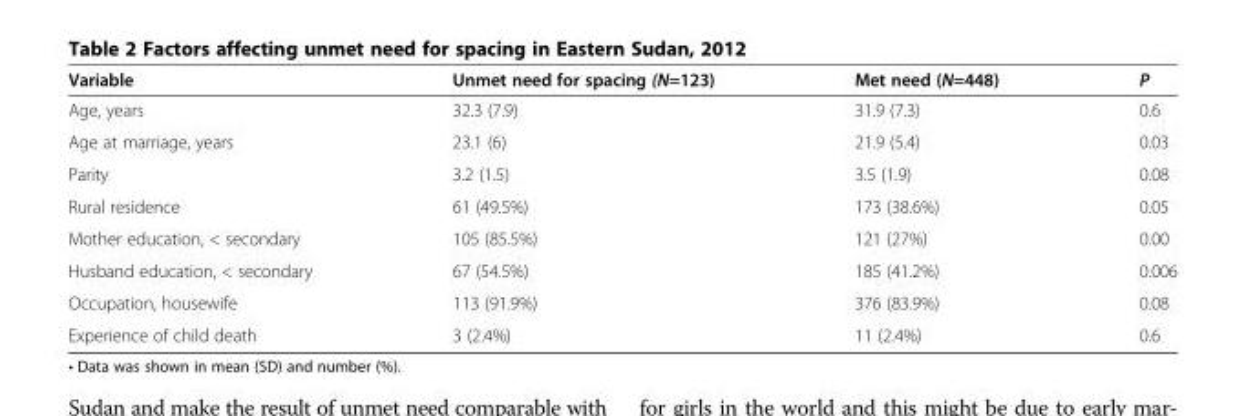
<table><thead><tr><td>Variable</td><td>Unmet need for spacing (N=123)</td><td>Met need (N=448)</td><td>P</td></tr></thead><tbody><tr><td>Age, years</td><td>32.3 (7.9)</td><td>31.9 (7.3)</td><td>0.6</td></tr><tr><td>Age at marriage, years</td><td>23.1 (6)</td><td>21.9 (5.4)</td><td>0.03</td></tr><tr><td>Parity</td><td>3.2 (1.5)</td><td>3.5 (1.9)</td><td>0.08</td></tr><tr><td>Rural residence</td><td>61 (49.5%)</td><td>173 (38.6%)</td><td>0.05</td></tr><tr><td>Mother education, &lt; secondary</td><td>105 (85.5%)</td><td>121 (27%)</td><td>0.00</td></tr><tr><td>Husband education, &lt; secondary</td><td>67 (54.5%)</td><td>185 (41.2%)</td><td>0.006</td></tr><tr><td>Occupation, housewife</td><td>113 (91.9%)</td><td>376 (83.9%)</td><td>0.08</td></tr><tr><td>Experience of child death</td><td>3 (2.4%)</td><td>11 (2.4%)</td><td>0.6</td></tr></tbody></table>